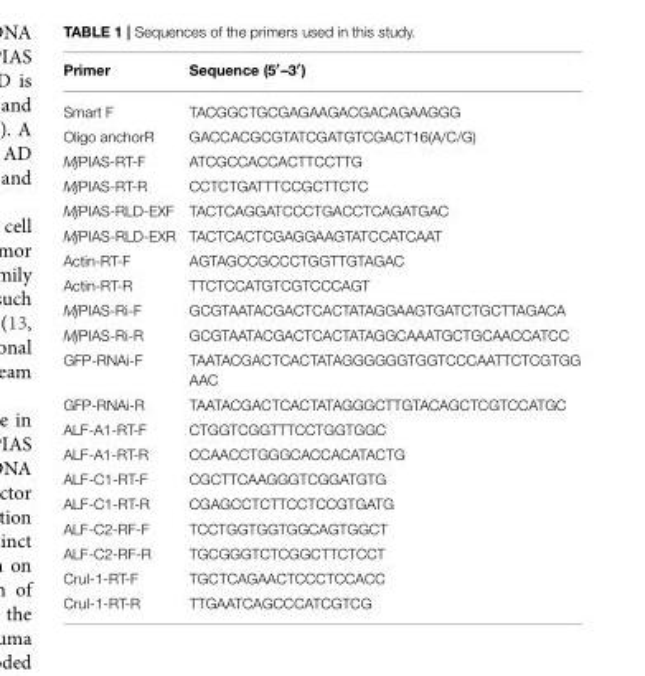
<table><thead><tr><td>Primer</td><td>Sequence (5<sup>′</sup>–3<sup>′</sup>)</td></tr></thead><tbody><tr><td>Smart F</td><td>TACGGCTGCGAGAAGACGACAGAAGGG</td></tr><tr><td>Oligo anchorR</td><td>GACCACGCGTATCGATGTCGACT16(A/C/G)</td></tr><tr><td>MjPIAS-RT-F</td><td>ATCGCCACCACTTCCTTG</td></tr><tr><td>MjPIAS-RT-R</td><td>CCTCTGATTTCCGCTTCTC</td></tr><tr><td>MjPIAS-RLD-EXF</td><td>TACTCAGGATCCCTGACCTCAGATGAC</td></tr><tr><td>MjPIAS-RLD-EXR</td><td>TACTCACTCGAGGAAGTATCCATCAAT</td></tr><tr><td>Actin-RT-F</td><td>AGTAGCCGCCCTGGTTGTAGAC</td></tr><tr><td>Actin-RT-R</td><td>TTCTCCATGTCGTCCCAGT</td></tr><tr><td>MjPIAS-Ri-F</td><td>GCGTAATACGACTCACTATAGGAAGTGATCTGCTTAGACA</td></tr><tr><td>MjPIAS-Ri-R</td><td>GCGTAATACGACTCACTATAGGCAAATGCTGCAACCATCC</td></tr><tr><td>GFP-RNAi-F</td><td>TAATACGACTCACTATAGGGGGGTGGTCCCAATTCTCGTGG AAC</td></tr><tr><td>GFP-RNAi-R</td><td>TAATACGACTCACTATAGGGCTTGTACAGCTCGTCCATGC</td></tr><tr><td>ALF-A1-RT-F</td><td>CTGGTCGGTTTCCTGGTGGC</td></tr><tr><td>ALF-A1-RT-R</td><td>CCAACCTGGGCACCACATACTG</td></tr><tr><td>ALF-C1-RT-F</td><td>CGCTTCAAGGGTCGGATGTG</td></tr><tr><td>ALF-C1-RT-R</td><td>CGAGCCTCTTCCTCCGTGATG</td></tr><tr><td>ALF-C2-RF-F</td><td>TCCTGGTGGTGGCAGTGGCT</td></tr><tr><td>ALF-C2-RF-R</td><td>TGCGGGTCTCGGCTTCTCCT</td></tr><tr><td>CruI-1-RT-F</td><td>TGCTCAGAACTCCCTCCACC</td></tr><tr><td>CruI-1-RT-R</td><td>TTGAATCAGCCCATCGTCG</td></tr></tbody></table>